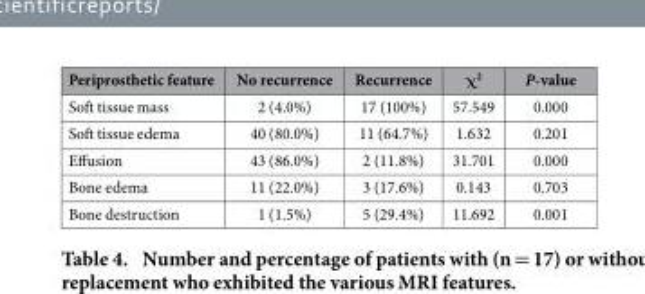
<table><thead><tr><td>Periprosthetic feature</td><td>No recurrence</td><td>Recurrence</td><td>χ<sup>2</sup></td><td>P-value</td></tr></thead><tbody><tr><td>Soft tissue mass</td><td>2 (4.0%)</td><td>17 (100%)</td><td>57.549</td><td>0.000</td></tr><tr><td>Soft tissue edema</td><td>40 (80.0%)</td><td>11 (64.7%)</td><td>1.632</td><td>0.201</td></tr><tr><td>Effusion</td><td>43 (86.0%)</td><td>2 (11.8%)</td><td>31.701</td><td>0.000</td></tr><tr><td>Bone edema</td><td>11 (22.0%)</td><td>3 (17.6%)</td><td>0.143</td><td>0.703</td></tr><tr><td>Bone destruction</td><td>1 (1.5%)</td><td>5 (29.4%)</td><td>11.692</td><td>0.001</td></tr></tbody></table>